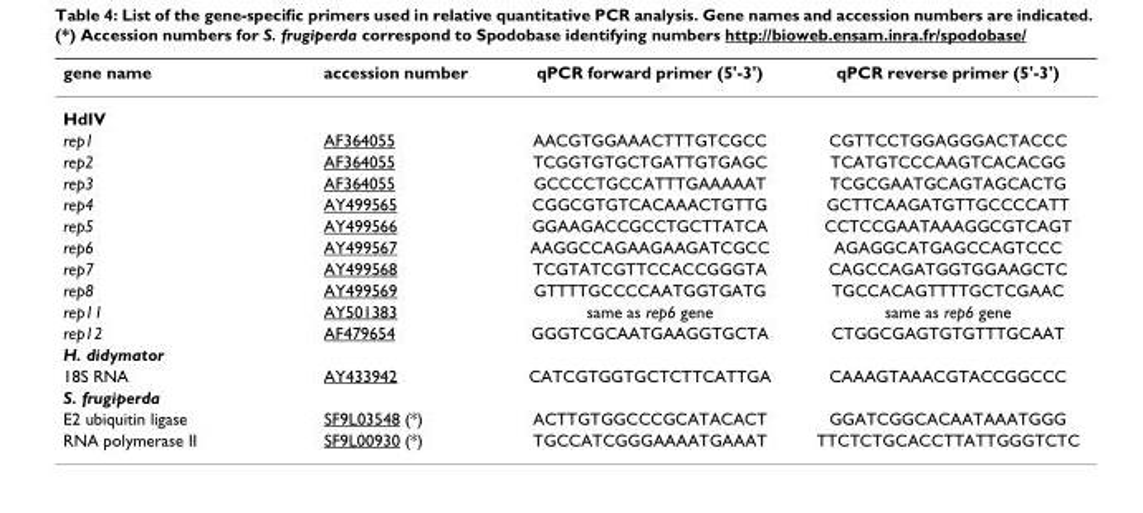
<table><thead><tr><td>gene name</td><td>accession number</td><td>qPCR forward primer (5&#x27;-3&#x27;)</td><td>qPCR reverse primer (5&#x27;-3&#x27;)</td></tr></thead><tbody><tr><td colspan="4">HdIV</td></tr><tr><td>rep1</td><td>AF364055</td><td>AACGTGGAAACTTTGTCGCC</td><td>CGTTCCTGGAGGGACTACCC</td></tr><tr><td>rep2</td><td>AF364055</td><td>TCGGTGTGCTGATTGTGAGC</td><td>TCATGTCCCAAGTCACACGG</td></tr><tr><td>rep3</td><td>AF364055</td><td>GCCCCTGCCATTTGAAAAAT</td><td>TCGCGAATGCAGTAGCACTG</td></tr><tr><td>rep4</td><td>AY499565</td><td>CGGCGTGTCACAAACTGTTG</td><td>GCTTCAAGATGTTGCCCCATT</td></tr><tr><td>rep5</td><td>AY499566</td><td>GGAAGACCGCCTGCTTATCA</td><td>CCTCCGAATAAAGGCGTCAGT</td></tr><tr><td>rep6</td><td>AY499567</td><td>AAGGCCAGAAGAAGATCGCC</td><td>AGAGGCATGAGCCAGTCCC</td></tr><tr><td>rep7</td><td>AY499568</td><td>TCGTATCGTTCCACCGGGTA</td><td>CAGCCAGATGGTGGAAGCTC</td></tr><tr><td>rep8</td><td>AY499569</td><td>GTTTTGCCCCAATGGTGATG</td><td>TGCCACAGTTTTGCTCGAAC</td></tr><tr><td>rep11</td><td>AY501383</td><td>same as rep6 gene</td><td>same as rep6 gene</td></tr><tr><td>rep12</td><td>AF479654</td><td>GGGTCGCAATGAAGGTGCTA</td><td>CTGGCGAGTGTGTTTGCAAT</td></tr><tr><td colspan="4">H. didymator</td></tr><tr><td>18S RNA</td><td>AY433942</td><td>CATCGTGGTGCTCTTCATTGA</td><td>CAAAGTAAACGTACCGGCCC</td></tr><tr><td colspan="4">S. frugiperda</td></tr><tr><td>E2 ubiquitin ligase</td><td>SF9L03548 (*)</td><td>ACTTGTGGCCCGCATACACT</td><td>GGATCGGCACAATAAATGGG</td></tr><tr><td>RNA polymerase II</td><td>SF9L00930 (*)</td><td>TGCCATCGGGAAAATGAAAT</td><td>TTCTCTGCACCTTATTGGGTCTC</td></tr></tbody></table>